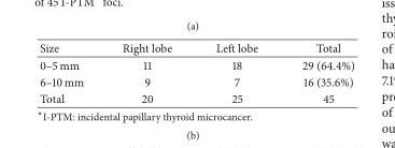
<table><thead><tr><td>Size</td><td>Right lobe</td><td>Left lobe</td><td>Total</td></tr></thead><tbody><tr><td>0–5 mm</td><td>11</td><td>18</td><td>29 (64.4%)</td></tr><tr><td>6–10 mm</td><td>9</td><td>7</td><td>16 (35.6%)</td></tr><tr><td>Total</td><td>20</td><td>25</td><td>45</td></tr></tbody></table>